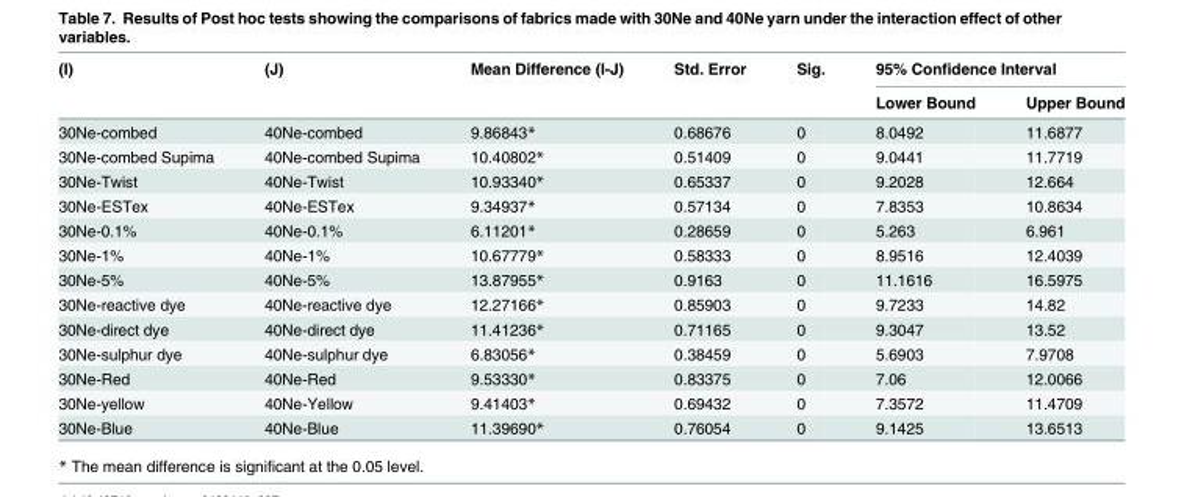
<table><thead><tr><td rowspan="2">(I)</td><td rowspan="2">(J)</td><td rowspan="2">Mean Difference (I-J)</td><td rowspan="2">Std. Error</td><td rowspan="2">Sig.</td><td colspan="2">95% Confidence Interval</td></tr><tr><td>Lower Bound</td><td>Upper Bound</td></tr></thead><tbody><tr><td>30Ne-combed</td><td>40Ne-combed</td><td>9.86843*</td><td>0.68676</td><td>0</td><td>8.0492</td><td>11.6877</td></tr><tr><td>30Ne-combed Supima</td><td>40Ne-combed Supima</td><td>10.40802*</td><td>0.51409</td><td>0</td><td>9.0441</td><td>11.7719</td></tr><tr><td>30Ne-Twist</td><td>40Ne-Twist</td><td>10.93340*</td><td>0.65337</td><td>0</td><td>9.2028</td><td>12.664</td></tr><tr><td>30Ne-ESTex</td><td>40Ne-ESTex</td><td>9.34937*</td><td>0.57134</td><td>0</td><td>7.8353</td><td>10.8634</td></tr><tr><td>30Ne-0.1%</td><td>40Ne-0.1%</td><td>6.11201*</td><td>0.28659</td><td>0</td><td>5.263</td><td>6.961</td></tr><tr><td>30Ne-1%</td><td>40Ne-1%</td><td>10.67779*</td><td>0.58333</td><td>0</td><td>8.9516</td><td>12.4039</td></tr><tr><td>30Ne-5%</td><td>40Ne-5%</td><td>13.87955*</td><td>0.9163</td><td>0</td><td>11.1616</td><td>16.5975</td></tr><tr><td>30Ne-reactive dye</td><td>40Ne-reactive dye</td><td>12.27166*</td><td>0.85903</td><td>0</td><td>9.7233</td><td>14.82</td></tr><tr><td>30Ne-direct dye</td><td>40Ne-direct dye</td><td>11.41236*</td><td>0.71165</td><td>0</td><td>9.3047</td><td>13.52</td></tr><tr><td>30Ne-sulphur dye</td><td>40Ne-sulphur dye</td><td>6.83056*</td><td>0.38459</td><td>0</td><td>5.6903</td><td>7.9708</td></tr><tr><td>30Ne-Red</td><td>40Ne-Red</td><td>9.53330*</td><td>0.83375</td><td>0</td><td>7.06</td><td>12.0066</td></tr><tr><td>30Ne-yellow</td><td>40Ne-Yellow</td><td>9.41403*</td><td>0.69432</td><td>0</td><td>7.3572</td><td>11.4709</td></tr><tr><td>30Ne-Blue</td><td>40Ne-Blue</td><td>11.39690*</td><td>0.76054</td><td>0</td><td>9.1425</td><td>13.6513</td></tr></tbody></table>